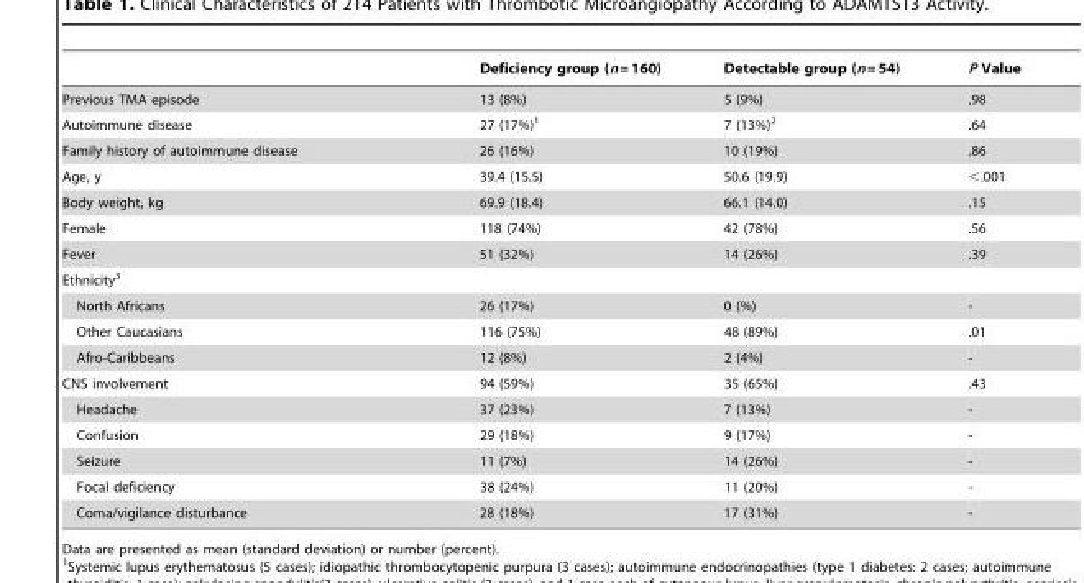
<table><thead><tr><td></td><td>Deficiency group (n = 160)</td><td>Detectable group (n = 54)</td><td>P Value</td></tr></thead><tbody><tr><td>Previous TMA episode</td><td>13 (8%)</td><td>5 (9%)</td><td>.98</td></tr><tr><td>Autoimmune disease</td><td>27 (17%)<sup>1</sup></td><td>7 (13%)<sup>2</sup></td><td>.64</td></tr><tr><td>Family history of autoimmune disease</td><td>26 (16%)</td><td>10 (19%)</td><td>.86</td></tr><tr><td>Age, y</td><td>39.4 (15.5)</td><td>50.6 (19.9)</td><td>&lt;.001</td></tr><tr><td>Body weight, kg</td><td>69.9 (18.4)</td><td>66.1 (14.0)</td><td>.15</td></tr><tr><td>Female</td><td>118 (74%)</td><td>42 (78%)</td><td>.56</td></tr><tr><td>Fever</td><td>51 (32%)</td><td>14 (26%)</td><td>.39</td></tr><tr><td colspan="4">Ethnicity<sup>3</sup></td></tr><tr><td>North Africans</td><td>26 (17%)</td><td>0 (%)</td><td>-</td></tr><tr><td>Other Caucasians</td><td>116 (75%)</td><td>48 (89%)</td><td>.01</td></tr><tr><td>Afro-Caribbeans</td><td>12 (8%)</td><td>2 (4%)</td><td>-</td></tr><tr><td>CNS involvement</td><td>94 (59%)</td><td>35 (65%)</td><td>.43</td></tr><tr><td>Headache</td><td>37 (23%)</td><td>7 (13%)</td><td>-</td></tr><tr><td>Confusion</td><td>29 (18%)</td><td>9 (17%)</td><td>-</td></tr><tr><td>Seizure</td><td>11 (7%)</td><td>14 (26%)</td><td>-</td></tr><tr><td>Focal deficiency</td><td>38 (24%)</td><td>11 (20%)</td><td>-</td></tr><tr><td>Coma/vigilance disturbance</td><td>28 (18%)</td><td>17 (31%)</td><td>-</td></tr></tbody></table>